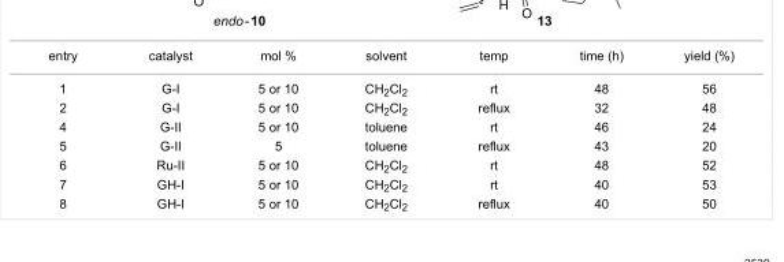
<table><tbody><tr><td>entry</td><td>catalyst</td><td>mol %</td><td>solvent</td><td>temp</td><td>time (h)</td><td>yield (%)</td></tr><tr><td>1</td><td>G-I</td><td>5 or 10</td><td>CH<sub>2</sub>Cl<sub>2</sub></td><td>rt</td><td>48</td><td>56</td></tr><tr><td>2</td><td>G-I</td><td>5 or 10</td><td>CH<sub>2</sub>Cl<sub>2</sub></td><td>reflux</td><td>32</td><td>48</td></tr><tr><td>4</td><td>G-II</td><td>5 or 10</td><td>toluene</td><td>rt</td><td>46</td><td>24</td></tr><tr><td>5</td><td>G-II</td><td>5</td><td>toluene</td><td>reflux</td><td>43</td><td>20</td></tr><tr><td>6</td><td>Ru-II</td><td>5 or 10</td><td>CH<sub>2</sub>Cl<sub>2</sub></td><td>rt</td><td>48</td><td>52</td></tr><tr><td>7</td><td>GH-I</td><td>5 or 10</td><td>CH<sub>2</sub>Cl<sub>2</sub></td><td>rt</td><td>40</td><td>53</td></tr><tr><td>8</td><td>GH-I</td><td>5 or 10</td><td>CH<sub>2</sub>Cl<sub>2</sub></td><td>reflux</td><td>40</td><td>50</td></tr></tbody></table>